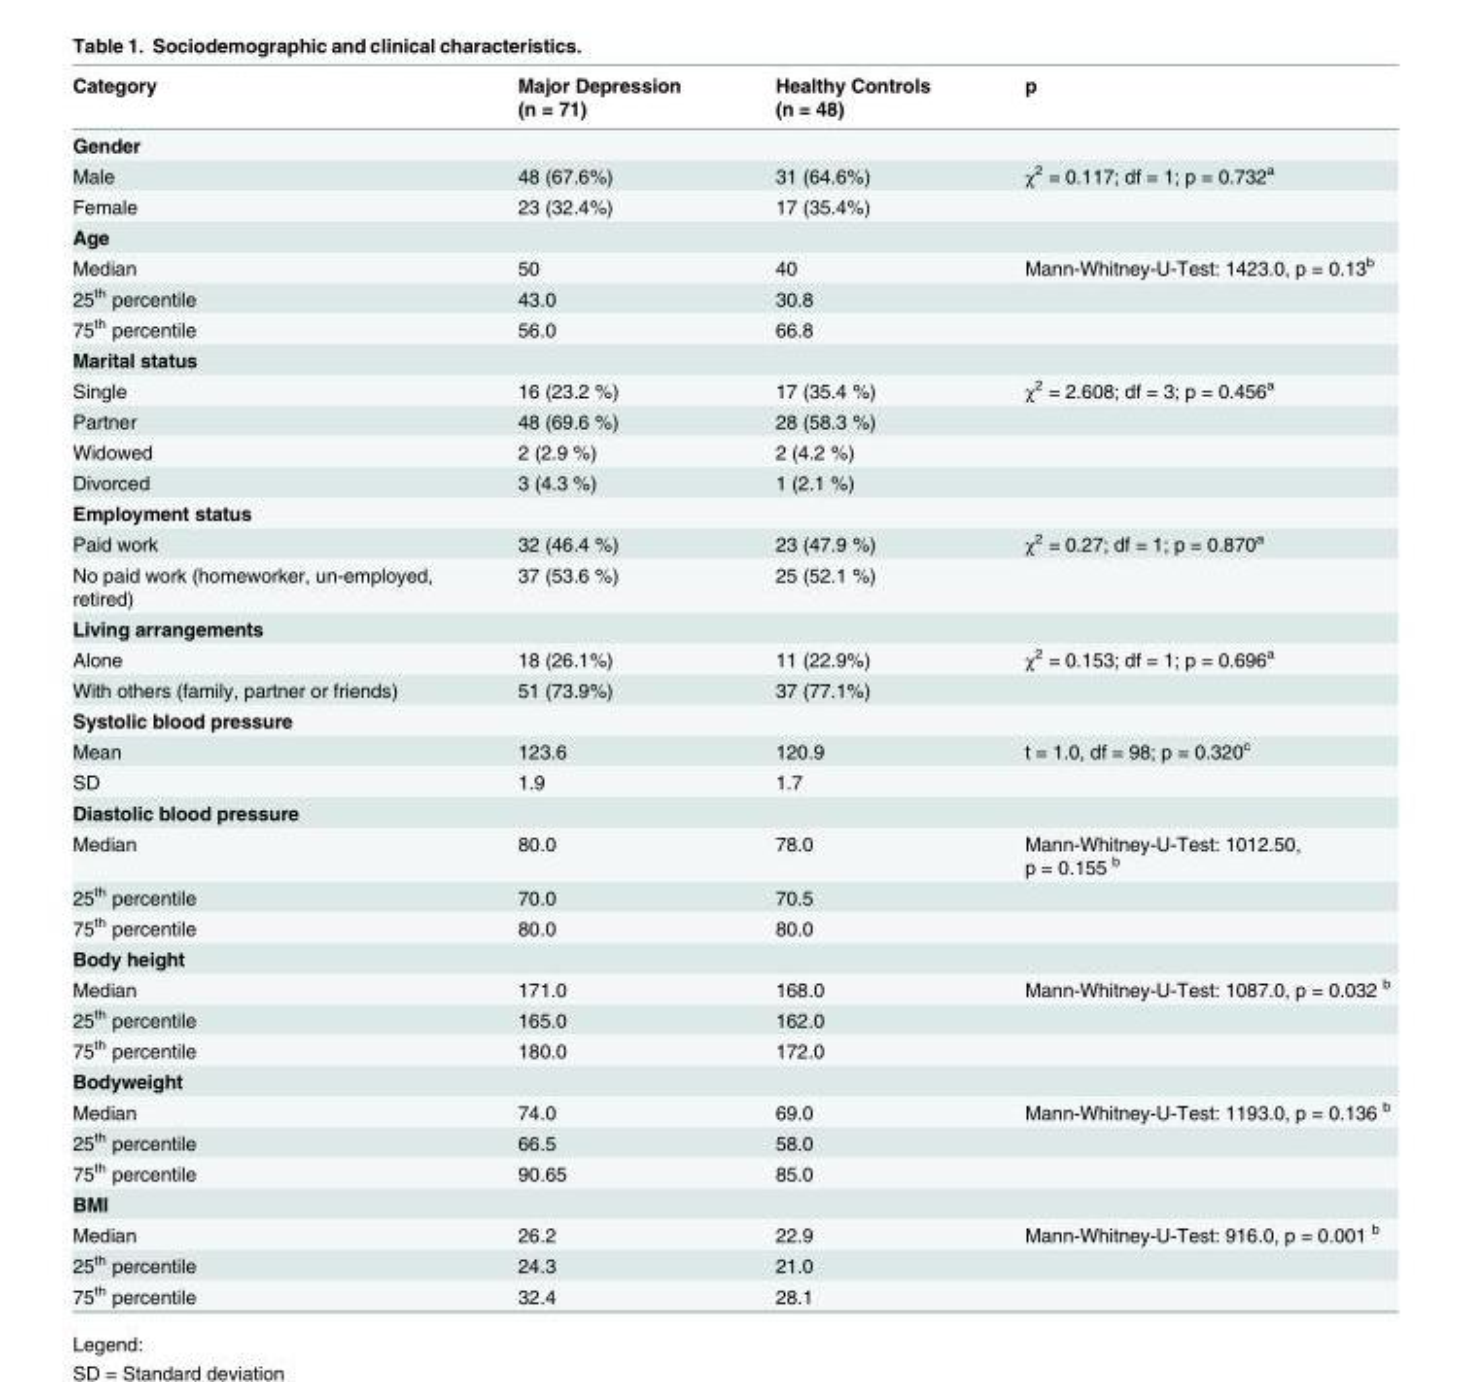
<table><thead><tr><td>Category</td><td>Major Depression (n = 71)</td><td>Healthy Controls (n = 48)</td><td>p</td></tr></thead><tbody><tr><td colspan="4">Gender</td></tr><tr><td>Male</td><td>48 (67.6%)</td><td>31 (64.6%)</td><td>χ<sup>2</sup> = 0.117; df = 1; p = 0.732<sup>a</sup></td></tr><tr><td>Female</td><td>23 (32.4%)</td><td>17 (35.4%)</td><td></td></tr><tr><td colspan="4">Age</td></tr><tr><td>Median</td><td>50</td><td>40</td><td>Mann-Whitney-U-Test: 1423.0, p = 0.13<sup>b</sup></td></tr><tr><td>25<sup>th</sup> percentile</td><td>43.0</td><td>30.8</td><td></td></tr><tr><td>75<sup>th</sup> percentile</td><td>56.0</td><td>66.8</td><td></td></tr><tr><td colspan="4">Marital status</td></tr><tr><td>Single</td><td>16 (23.2 %)</td><td>17 (35.4 %)</td><td>χ<sup>2</sup> = 2.608; df = 3; p = 0.456<sup>a</sup></td></tr><tr><td>Partner</td><td>48 (69.6 %)</td><td>28 (58.3 %)</td><td></td></tr><tr><td>Widowed</td><td>2 (2.9 %)</td><td>2 (4.2 %)</td><td></td></tr><tr><td>Divorced</td><td>3 (4.3 %)</td><td>1 (2.1 %)</td><td></td></tr><tr><td colspan="4">Employment status</td></tr><tr><td>Paid work</td><td>32 (46.4 %)</td><td>23 (47.9 %)</td><td>χ<sup>2</sup> = 0.27; df = 1; p = 0.870<sup>a</sup></td></tr><tr><td>No paid work (homeworker, un-employed, retired)</td><td>37 (53.6 %)</td><td>25 (52.1 %)</td><td></td></tr><tr><td colspan="4">Living arrangements</td></tr><tr><td>Alone</td><td>18 (26.1%)</td><td>11 (22.9%)</td><td>χ<sup>2</sup> = 0.153; df = 1; p = 0.696<sup>a</sup></td></tr><tr><td>With others (family, partner or friends)</td><td>51 (73.9%)</td><td>37 (77.1%)</td><td></td></tr><tr><td colspan="4">Systolic blood pressure</td></tr><tr><td>Mean</td><td>123.6</td><td>120.9</td><td>t = 1.0, df = 98; p = 0.320<sup>c</sup></td></tr><tr><td>SD</td><td>1.9</td><td>1.7</td><td></td></tr><tr><td colspan="4">Diastolic blood pressure</td></tr><tr><td>Median</td><td>80.0</td><td>78.0</td><td>Mann-Whitney-U-Test: 1012.50, p = 0.155 <sup>b</sup></td></tr><tr><td>25<sup>th</sup> percentile</td><td>70.0</td><td>70.5</td><td></td></tr><tr><td>75<sup>th</sup> percentile</td><td>80.0</td><td>80.0</td><td></td></tr><tr><td colspan="4">Body height</td></tr><tr><td>Median</td><td>171.0</td><td>168.0</td><td>Mann-Whitney-U-Test: 1087.0, p = 0.032 <sup>b</sup></td></tr><tr><td>25<sup>th</sup> percentile</td><td>165.0</td><td>162.0</td><td></td></tr><tr><td>75<sup>th</sup> percentile</td><td>180.0</td><td>172.0</td><td></td></tr><tr><td colspan="4">Bodyweight</td></tr><tr><td>Median</td><td>74.0</td><td>69.0</td><td>Mann-Whitney-U-Test: 1193.0, p = 0.136 <sup>b</sup></td></tr><tr><td>25<sup>th</sup> percentile</td><td>66.5</td><td>58.0</td><td></td></tr><tr><td>75<sup>th</sup> percentile</td><td>90.65</td><td>85.0</td><td></td></tr><tr><td colspan="4">BMI</td></tr><tr><td>Median</td><td>26.2</td><td>22.9</td><td>Mann-Whitney-U-Test: 916.0, p = 0.001 <sup>b</sup></td></tr><tr><td>25<sup>th</sup> percentile</td><td>24.3</td><td>21.0</td><td></td></tr><tr><td>75<sup>th</sup> percentile</td><td>32.4</td><td>28.1</td><td></td></tr></tbody></table>